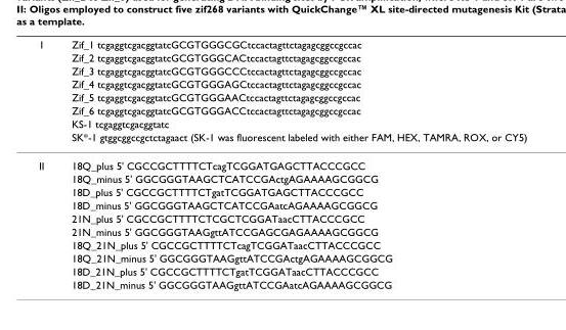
<table><thead><tr><td rowspan="8">I</td><td rowspan="8">Zif_1 tcgaggtcgacggtatcGCGTGGGCGCtccactagttctagagcggccgccac Zif_2 tcgaggtcgacggtatcGCGTGGGCACtccactagttctagagcggccgccac Zif_3 tcgaggtcgacggtatcGCGTGGGCCCtccactagttctagagcggccgccac Zif_4 tcgaggtcgacggtatcGCGTGGGAGCtccactagttctagagcggccgccac Zif_5 tcgaggtcgacggtatcGCGTGGGAACtccactagttctagagcggccgccac Zif_6 tcgaggtcgacggtatcGCGTGGGACCtccactagttctagagcggccgccac KS-1 tcgaggtcgacggtatc SK*-1 gtggcggccgctctagaact (SK-1 was fluorescent labeled with either FAM, HEX, TAMRA, ROX, or CY5)</td></tr><tr></tr><tr></tr><tr></tr><tr></tr><tr></tr><tr></tr><tr></tr></thead><tbody><tr><td rowspan="10">II</td><td>18Q_plus 5&#x27; CGCCGCTTTTCTcagTCGGATGAGCTTACCCGCC</td></tr><tr><td>18Q_minus 5&#x27; GGCGGGTAAGCTCATCCGActgAGAAAAGCGGCG</td></tr><tr><td>18D_plus 5&#x27; CGCCGCTTTTCTgatTCGGATGAGCTTACCCGCC</td></tr><tr><td>18D_minus 5&#x27; GGCGGGTAAGCTCATCCGAatcAGAAAAGCGGCG</td></tr><tr><td>21N_plus 5&#x27; CGCCGCTTTTCTCGCTCGGATaacCTTACCCGCC</td></tr><tr><td>21N_minus 5&#x27; GGCGGGTAAGgttATCCGAGCGAGAAAAGCGGCG</td></tr><tr><td>18Q_21N_plus 5&#x27; CGCCGCTTTTCTcagTCGGATaacCTTACCCGCC</td></tr><tr><td>18Q_21N_minus 5&#x27; GGCGGGTAAGgttATCCGActgAGAAAAGCGGCG</td></tr><tr><td>18D_21N_plus 5&#x27; CGCCGCTTTTCTgatTCGGATaacCTTACCCGCC</td></tr><tr><td>18D_21N_minus 5&#x27; GGCGGGTAAGgttATCCGAatcAGAAAAGCGGCG</td></tr></tbody></table>